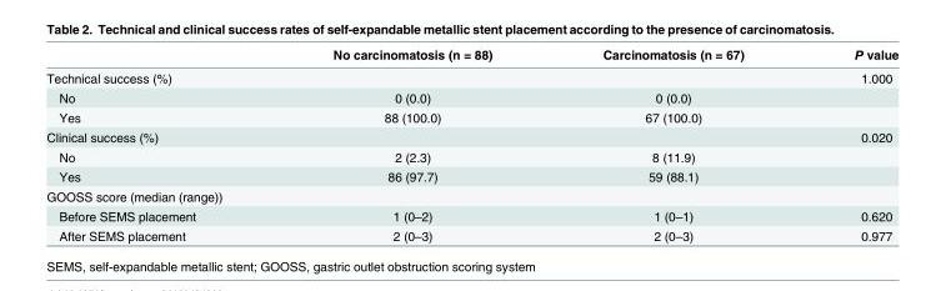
<table><thead><tr><td></td><td>No carcinomatosis (n = 88)</td><td>Carcinomatosis (n = 67)</td><td>P value</td></tr></thead><tbody><tr><td>Technical success (%)</td><td></td><td></td><td>1.000</td></tr><tr><td>No</td><td>0 (0.0)</td><td>0 (0.0)</td><td></td></tr><tr><td>Yes</td><td>88 (100.0)</td><td>67 (100.0)</td><td></td></tr><tr><td>Clinical success (%)</td><td></td><td></td><td>0.020</td></tr><tr><td>No</td><td>2 (2.3)</td><td>8 (11.9)</td><td></td></tr><tr><td>Yes</td><td>86 (97.7)</td><td>59 (88.1)</td><td></td></tr><tr><td colspan="4">GOOSS score (median (range))</td></tr><tr><td>Before SEMS placement</td><td>1 (0–2)</td><td>1 (0–1)</td><td>0.620</td></tr><tr><td>After SEMS placement</td><td>2 (0–3)</td><td>2 (0–3)</td><td>0.977</td></tr></tbody></table>